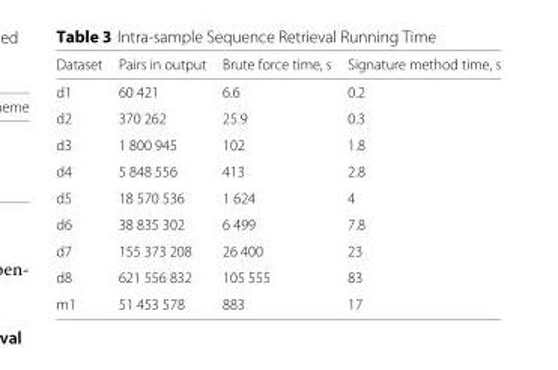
<table><thead><tr><td>Dataset</td><td>Pairs in output</td><td>Brute force time, s</td><td>Signature method time, s</td></tr></thead><tbody><tr><td>d1</td><td>60 421</td><td>6.6</td><td>0.2</td></tr><tr><td>d2</td><td>370 262</td><td>25.9</td><td>0.3</td></tr><tr><td>d3</td><td>1 800 945</td><td>102</td><td>1.8</td></tr><tr><td>d4</td><td>5 848 556</td><td>413</td><td>2.8</td></tr><tr><td>d5</td><td>18 570 536</td><td>1 624</td><td>4</td></tr><tr><td>d6</td><td>38 835 302</td><td>6 499</td><td>7.8</td></tr><tr><td>d7</td><td>155 373 208</td><td>26 400</td><td>23</td></tr><tr><td>d8</td><td>621 556 832</td><td>105 555</td><td>83</td></tr><tr><td>m1</td><td>51 453 578</td><td>883</td><td>17</td></tr></tbody></table>